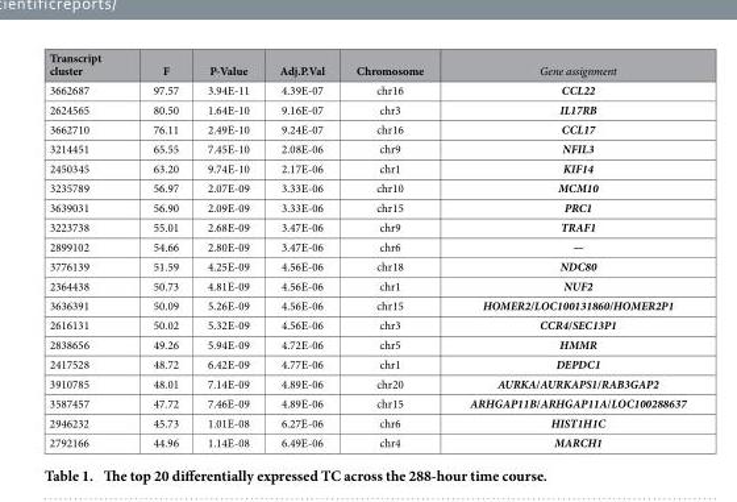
<table><thead><tr><td>Transcript cluster</td><td>F</td><td>P-Value</td><td>Adj.P.Val</td><td>Chromosome</td><td>Gene assignment</td></tr></thead><tbody><tr><td>3662687</td><td>97.57</td><td>3.94E-11</td><td>4.39E-07</td><td>chr16</td><td>CCL22</td></tr><tr><td>2624565</td><td>80.50</td><td>1.64E-10</td><td>9.16E-07</td><td>chr3</td><td>IL17RB</td></tr><tr><td>3662710</td><td>76.11</td><td>2.49E-10</td><td>9.24E-07</td><td>chr16</td><td>CCL17</td></tr><tr><td>3214451</td><td>65.55</td><td>7.45E-10</td><td>2.08E-06</td><td>chr9</td><td>NFIL3</td></tr><tr><td>2450345</td><td>63.20</td><td>9.74E-10</td><td>2.17E-06</td><td>chr1</td><td>KIF14</td></tr><tr><td>3235789</td><td>56.97</td><td>2.07E-09</td><td>3.33E-06</td><td>chr10</td><td>MCM10</td></tr><tr><td>3639031</td><td>56.90</td><td>2.09E-09</td><td>3.33E-06</td><td>chr15</td><td>PRC1</td></tr><tr><td>3223738</td><td>55.01</td><td>2.68E-09</td><td>3.47E-06</td><td>chr9</td><td>TRAF1</td></tr><tr><td>2899102</td><td>54.66</td><td>2.80E-09</td><td>3.47E-06</td><td>chr6</td><td>—</td></tr><tr><td>3776139</td><td>51.59</td><td>4.25E-09</td><td>4.56E-06</td><td>chr18</td><td>NDC80</td></tr><tr><td>2364438</td><td>50.73</td><td>4.81E-09</td><td>4.56E-06</td><td>chr1</td><td>NUF2</td></tr><tr><td>3636391</td><td>50.09</td><td>5.26E-09</td><td>4.56E-06</td><td>chr15</td><td>HOMER2/LOC100131860/HOMER2P1</td></tr><tr><td>2616131</td><td>50.02</td><td>5.32E-09</td><td>4.56E-06</td><td>chr3</td><td>CCR4/SEC13P1</td></tr><tr><td>2838656</td><td>49.26</td><td>5.94E-09</td><td>4.72E-06</td><td>chr5</td><td>HMMR</td></tr><tr><td>2417528</td><td>48.72</td><td>6.42E-09</td><td>4.77E-06</td><td>chr1</td><td>DEPDC1</td></tr><tr><td>3910785</td><td>48.01</td><td>7.14E-09</td><td>4.89E-06</td><td>chr20</td><td>AURKA/AURKAPS1/RAB3GAP2</td></tr><tr><td>3587457</td><td>47.72</td><td>7.46E-09</td><td>4.89E-06</td><td>chr15</td><td>ARHGAP11B/ARHGAP11A/LOC100288637</td></tr><tr><td>2946232</td><td>45.73</td><td>1.01E-08</td><td>6.27E-06</td><td>chr6</td><td>HIST1H1C</td></tr><tr><td>2792166</td><td>44.96</td><td>1.14E-08</td><td>6.49E-06</td><td>chr4</td><td>MARCH1</td></tr></tbody></table>